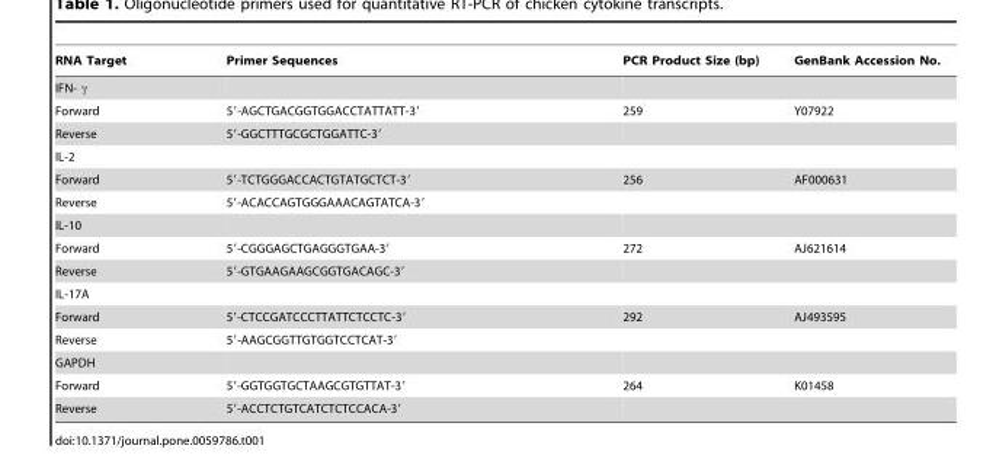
<table><thead><tr><td>RNA Target</td><td>Primer Sequences</td><td>PCR Product Size (bp)</td><td>GenBank Accession No.</td></tr></thead><tbody><tr><td colspan="4">IFN- γ</td></tr><tr><td>Forward</td><td>5′-AGCTGACGGTGGACCTATTATT-3′</td><td>259</td><td>Y07922</td></tr><tr><td>Reverse</td><td>5′-GGCTTTGCGCTGGATTC-3′</td><td></td><td></td></tr><tr><td colspan="4">IL-2</td></tr><tr><td>Forward</td><td>5′-TCTGGGACCACTGTATGCTCT-3′</td><td>256</td><td>AF000631</td></tr><tr><td>Reverse</td><td>5′-ACACCAGTGGGAAACAGTATCA-3′</td><td></td><td></td></tr><tr><td colspan="4">IL-10</td></tr><tr><td>Forward</td><td>5′-CGGGAGCTGAGGGTGAA-3′</td><td>272</td><td>AJ621614</td></tr><tr><td>Reverse</td><td>5′-GTGAAGAAGCGGTGACAGC-3′</td><td></td><td></td></tr><tr><td colspan="4">IL-17A</td></tr><tr><td>Forward</td><td>5′-CTCCGATCCCTTATTCTCCTC-3′</td><td>292</td><td>AJ493595</td></tr><tr><td>Reverse</td><td>5′-AAGCGGTTGTGGTCCTCAT-3′</td><td></td><td></td></tr><tr><td colspan="4">GAPDH</td></tr><tr><td>Forward</td><td>5′-GGTGGTGCTAAGCGTGTTAT-3′</td><td>264</td><td>K01458</td></tr><tr><td>Reverse</td><td>5′-ACCTCTGTCATCTCTCCACA-3′</td><td></td><td></td></tr></tbody></table>